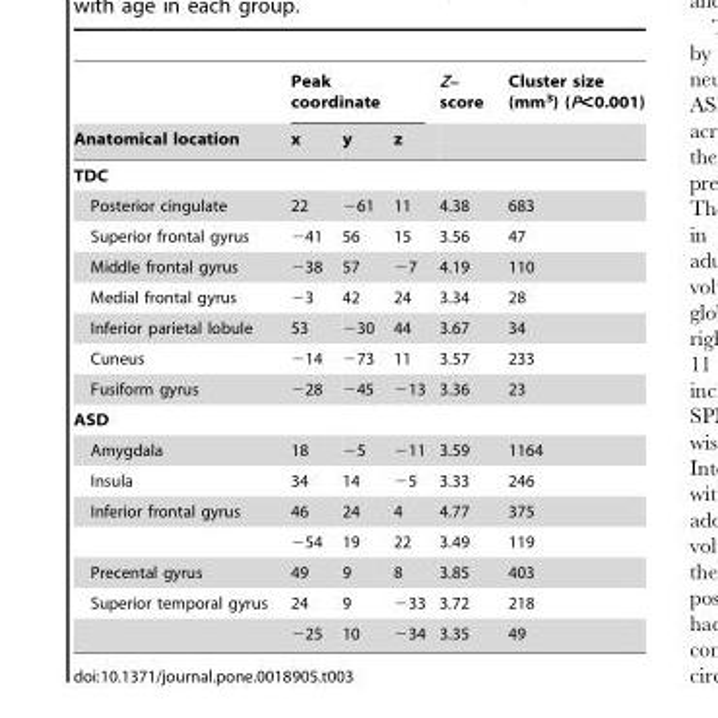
<table><thead><tr><td rowspan="2">Anatomical location</td><td colspan="3">Peak coordinate</td><td rowspan="2">Z<sub>≡</sub> score</td><td rowspan="2">Cluster size (mm<sup>3</sup>) (P&lt;0.001)</td></tr><tr><td>x</td><td>y</td><td>z</td></tr></thead><tbody><tr><td colspan="6">TDC</td></tr><tr><td>Posterior cingulate</td><td>22</td><td>−61</td><td>11</td><td>4.38</td><td>683</td></tr><tr><td>Superior frontal gyrus</td><td>−41</td><td>56</td><td>15</td><td>3.56</td><td>47</td></tr><tr><td>Middle frontal gyrus</td><td>−38</td><td>57</td><td>−7</td><td>4.19</td><td>110</td></tr><tr><td>Medial frontal gyrus</td><td>−3</td><td>42</td><td>24</td><td>3.34</td><td>28</td></tr><tr><td>Inferior parietal lobule</td><td>53</td><td>−30</td><td>44</td><td>3.67</td><td>34</td></tr><tr><td>Cuneus</td><td>−14</td><td>−73</td><td>11</td><td>3.57</td><td>233</td></tr><tr><td>Fusiform gyrus</td><td>−28</td><td>−45</td><td>−13</td><td>3.36</td><td>23</td></tr><tr><td colspan="6">ASD</td></tr><tr><td>Amygdala</td><td>18</td><td>−5</td><td>−11</td><td>3.59</td><td>1164</td></tr><tr><td>Insula</td><td>34</td><td>14</td><td>−5</td><td>3.33</td><td>246</td></tr><tr><td rowspan="2">Inferior frontal gyrus</td><td>46</td><td>24</td><td>4</td><td>4.77</td><td>375</td></tr><tr><td>−54</td><td>19</td><td>22</td><td>3.49</td><td>119</td></tr><tr><td>Precental gyrus</td><td>49</td><td>9</td><td>8</td><td>3.85</td><td>403</td></tr><tr><td rowspan="2">Superior temporal gyrus</td><td>24</td><td>9</td><td>−33</td><td>3.72</td><td>218</td></tr><tr><td>−25</td><td>10</td><td>−34</td><td>3.35</td><td>49</td></tr></tbody></table>